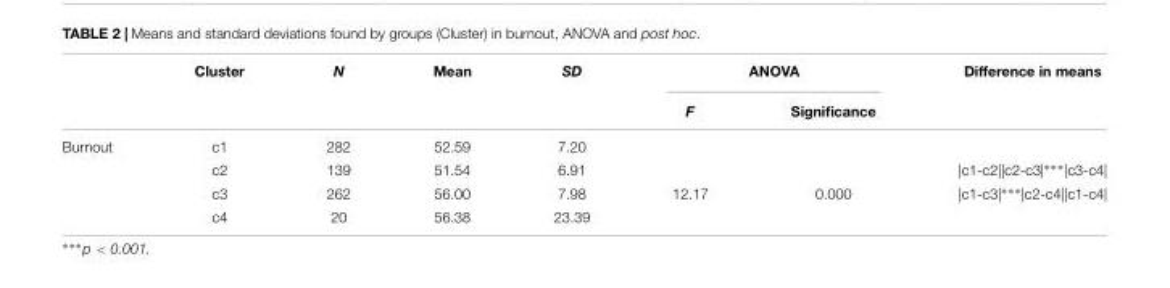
<table><thead><tr><td rowspan="2"></td><td rowspan="2">Cluster</td><td rowspan="2">N</td><td rowspan="2">Mean</td><td rowspan="2">SD</td><td colspan="2">ANOVA</td><td rowspan="2">Difference in means</td></tr><tr><td>F</td><td>Significance</td></tr></thead><tbody><tr><td rowspan="4">Burnout</td><td>c1</td><td>282</td><td>52.59</td><td>7.20</td><td></td><td></td><td></td></tr><tr><td>c2</td><td>139</td><td>51.54</td><td>6.91</td><td></td><td></td><td>|c1-c2||c2-c3|∗∗∗|c3-c4|</td></tr><tr><td>c3</td><td>262</td><td>56.00</td><td>7.98</td><td>12.17</td><td>0.000</td><td>|c1-c3|∗∗∗|c2-c4||c1-c4|</td></tr><tr><td>c4</td><td>20</td><td>56.38</td><td>23.39</td><td></td><td></td><td></td></tr></tbody></table>